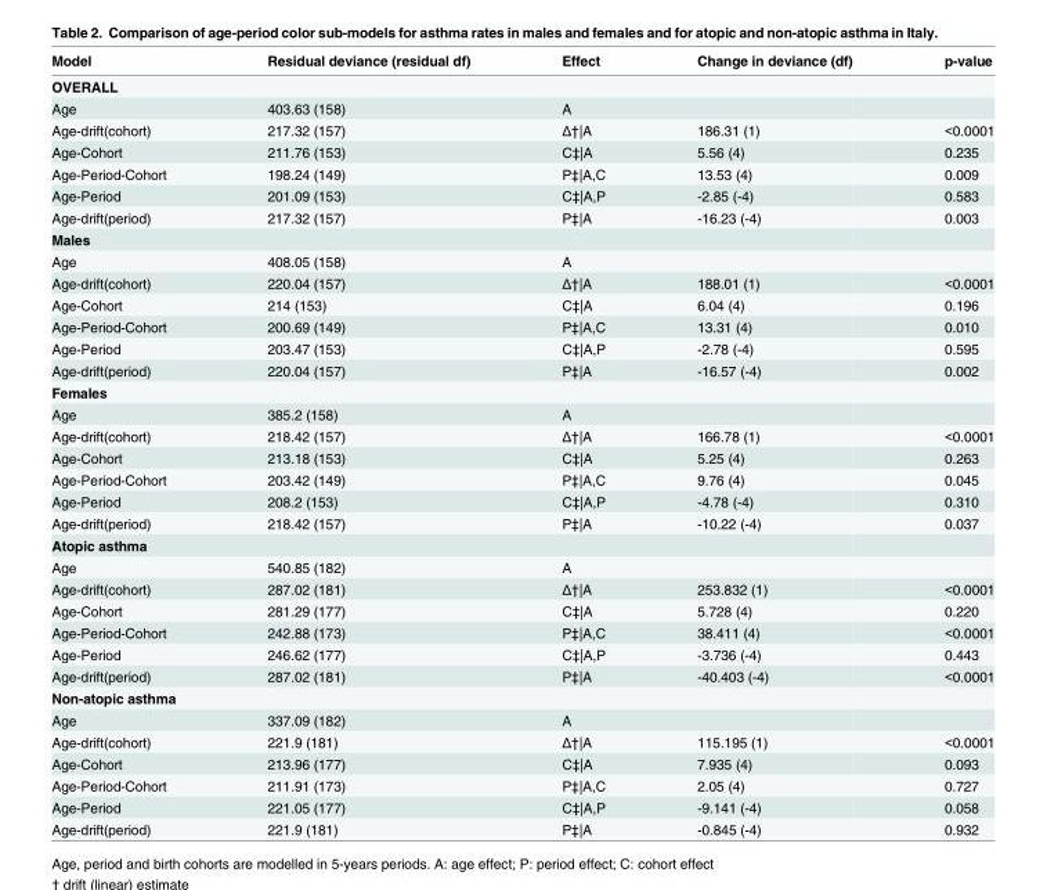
<table><thead><tr><td>Model</td><td>Residual deviance (residual df)</td><td>Effect</td><td>Change in deviance (df)</td><td>p-value</td></tr></thead><tbody><tr><td colspan="5">OVERALL</td></tr><tr><td>Age</td><td>403.63 (158)</td><td>A</td><td></td><td></td></tr><tr><td>Age-drift(cohort)</td><td>217.32 (157)</td><td>Δ†|A</td><td>186.31 (1)</td><td>&lt;0.0001</td></tr><tr><td>Age-Cohort</td><td>211.76 (153)</td><td>C‡|A</td><td>5.56 (4)</td><td>0.235</td></tr><tr><td>Age-Period-Cohort</td><td>198.24 (149)</td><td>P‡|A,C</td><td>13.53 (4)</td><td>0.009</td></tr><tr><td>Age-Period</td><td>201.09 (153)</td><td>C‡|A,P</td><td>-2.85 (-4)</td><td>0.583</td></tr><tr><td>Age-drift(period)</td><td>217.32 (157)</td><td>P‡|A</td><td>-16.23 (-4)</td><td>0.003</td></tr><tr><td colspan="5">Males</td></tr><tr><td>Age</td><td>408.05 (158)</td><td>A</td><td></td><td></td></tr><tr><td>Age-drift(cohort)</td><td>220.04 (157)</td><td>Δ†|A</td><td>188.01 (1)</td><td>&lt;0.0001</td></tr><tr><td>Age-Cohort</td><td>214 (153)</td><td>C‡|A</td><td>6.04 (4)</td><td>0.196</td></tr><tr><td>Age-Period-Cohort</td><td>200.69 (149)</td><td>P‡|A,C</td><td>13.31 (4)</td><td>0.010</td></tr><tr><td>Age-Period</td><td>203.47 (153)</td><td>C‡|A,P</td><td>-2.78 (-4)</td><td>0.595</td></tr><tr><td>Age-drift(period)</td><td>220.04 (157)</td><td>P‡|A</td><td>-16.57 (-4)</td><td>0.002</td></tr><tr><td colspan="5">Females</td></tr><tr><td>Age</td><td>385.2 (158)</td><td>A</td><td></td><td></td></tr><tr><td>Age-drift(cohort)</td><td>218.42 (157)</td><td>Δ†|A</td><td>166.78 (1)</td><td>&lt;0.0001</td></tr><tr><td>Age-Cohort</td><td>213.18 (153)</td><td>C‡|A</td><td>5.25 (4)</td><td>0.263</td></tr><tr><td>Age-Period-Cohort</td><td>203.42 (149)</td><td>P‡|A,C</td><td>9.76 (4)</td><td>0.045</td></tr><tr><td>Age-Period</td><td>208.2 (153)</td><td>C‡|A,P</td><td>-4.78 (-4)</td><td>0.310</td></tr><tr><td>Age-drift(period)</td><td>218.42 (157)</td><td>P‡|A</td><td>-10.22 (-4)</td><td>0.037</td></tr><tr><td colspan="5">Atopic asthma</td></tr><tr><td>Age</td><td>540.85 (182)</td><td>A</td><td></td><td></td></tr><tr><td>Age-drift(cohort)</td><td>287.02 (181)</td><td>Δ†|A</td><td>253.832 (1)</td><td>&lt;0.0001</td></tr><tr><td>Age-Cohort</td><td>281.29 (177)</td><td>C‡|A</td><td>5.728 (4)</td><td>0.220</td></tr><tr><td>Age-Period-Cohort</td><td>242.88 (173)</td><td>P‡|A,C</td><td>38.411 (4)</td><td>&lt;0.0001</td></tr><tr><td>Age-Period</td><td>246.62 (177)</td><td>C‡|A,P</td><td>-3.736 (-4)</td><td>0.443</td></tr><tr><td>Age-drift(period)</td><td>287.02 (181)</td><td>P‡|A</td><td>-40.403 (-4)</td><td>&lt;0.0001</td></tr><tr><td colspan="5">Non-atopic asthma</td></tr><tr><td>Age</td><td>337.09 (182)</td><td>A</td><td></td><td></td></tr><tr><td>Age-drift(cohort)</td><td>221.9 (181)</td><td>Δ†|A</td><td>115.195 (1)</td><td>&lt;0.0001</td></tr><tr><td>Age-Cohort</td><td>213.96 (177)</td><td>C‡|A</td><td>7.935 (4)</td><td>0.093</td></tr><tr><td>Age-Period-Cohort</td><td>211.91 (173)</td><td>P‡|A,C</td><td>2.05 (4)</td><td>0.727</td></tr><tr><td>Age-Period</td><td>221.05 (177)</td><td>C‡|A,P</td><td>-9.141 (-4)</td><td>0.058</td></tr><tr><td>Age-drift(period)</td><td>221.9 (181)</td><td>P‡|A</td><td>-0.845 (-4)</td><td>0.932</td></tr></tbody></table>